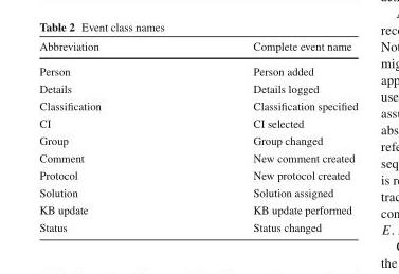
<table><thead><tr><td>Abbreviation</td><td>Complete event name</td></tr></thead><tbody><tr><td>Person</td><td>Person added</td></tr><tr><td>Details</td><td>Details logged</td></tr><tr><td>Classification</td><td>Classification specified</td></tr><tr><td>CI</td><td>CI selected</td></tr><tr><td>Group</td><td>Group changed</td></tr><tr><td>Comment</td><td>New comment created</td></tr><tr><td>Protocol</td><td>New protocol created</td></tr><tr><td>Solution</td><td>Solution assigned</td></tr><tr><td>KB update</td><td>KB update performed</td></tr><tr><td>Status</td><td>Status changed</td></tr></tbody></table>